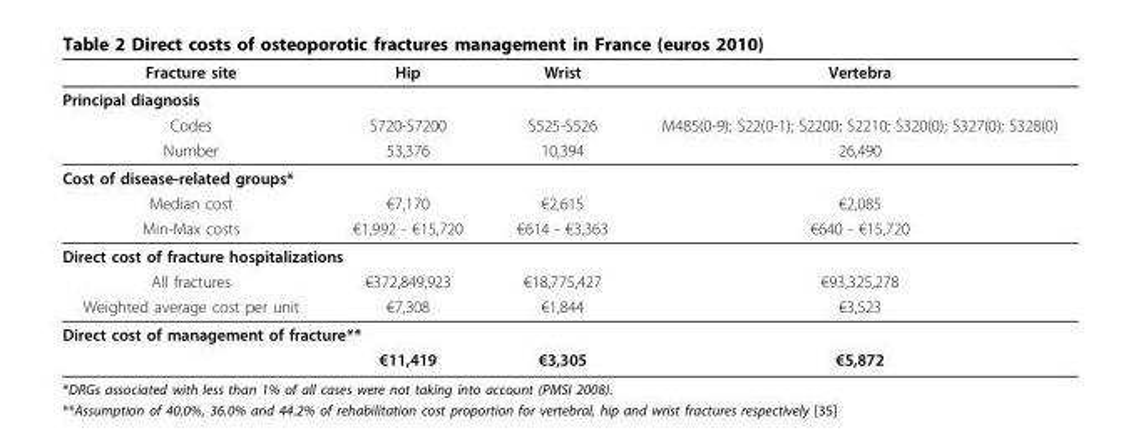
<table><thead><tr><td>Fracture site</td><td>Hip</td><td>Wrist</td><td>Vertebra</td></tr></thead><tbody><tr><td colspan="4">Principal diagnosis</td></tr><tr><td>Codes</td><td>S720-S7200</td><td>S525-S526</td><td>M485(0-9); S22(0-1); S2200; S2210; S320(0); S327(0); S328(0)</td></tr><tr><td>Number</td><td>53,376</td><td>10,394</td><td>26,490</td></tr><tr><td colspan="4">Cost of disease-related groups*</td></tr><tr><td>Median cost</td><td>€7,170</td><td>€2,615</td><td>€2,085</td></tr><tr><td>Min-Max costs</td><td>€1,992 - €15,720</td><td>€614 - €3,363</td><td>€640 - €15,720</td></tr><tr><td colspan="4">Direct cost of fracture hospitalizations</td></tr><tr><td>All fractures</td><td>€372,849,923</td><td>€18,775,427</td><td>€93,325,278</td></tr><tr><td>Weighted average cost per unit</td><td>€7,308</td><td>€1,844</td><td>€3,523</td></tr><tr><td colspan="4">Direct cost of management of fracture**</td></tr><tr><td></td><td>€11,419</td><td>€3,305</td><td>€5,872</td></tr></tbody></table>